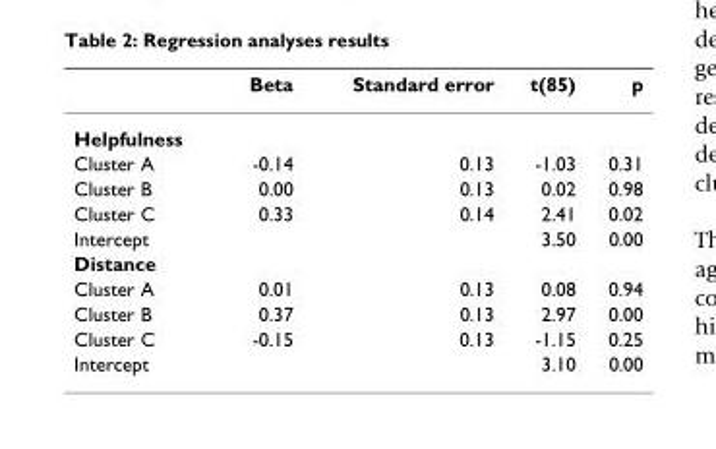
<table><thead><tr><td></td><td>Beta</td><td>Standard error</td><td>t(85)</td><td>p</td></tr></thead><tbody><tr><td colspan="5">Helpfulness</td></tr><tr><td>Cluster A</td><td>-0.14</td><td>0.13</td><td>-1.03</td><td>0.31</td></tr><tr><td>Cluster B</td><td>0.00</td><td>0.13</td><td>0.02</td><td>0.98</td></tr><tr><td>Cluster C</td><td>0.33</td><td>0.14</td><td>2.41</td><td>0.02</td></tr><tr><td>Intercept</td><td></td><td></td><td>3.50</td><td>0.00</td></tr><tr><td colspan="5">Distance</td></tr><tr><td>Cluster A</td><td>0.01</td><td>0.13</td><td>0.08</td><td>0.94</td></tr><tr><td>Cluster B</td><td>0.37</td><td>0.13</td><td>2.97</td><td>0.00</td></tr><tr><td>Cluster C</td><td>-0.15</td><td>0.13</td><td>-1.15</td><td>0.25</td></tr><tr><td>Intercept</td><td></td><td></td><td>3.10</td><td>0.00</td></tr></tbody></table>